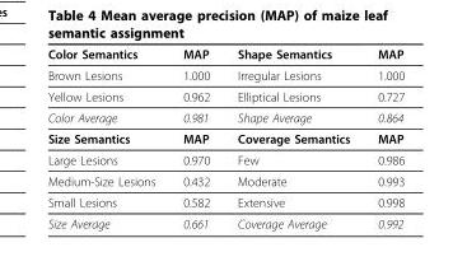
<table><thead><tr><td>Color Semantics</td><td>MAP</td><td>Shape Semantics</td><td>MAP</td></tr></thead><tbody><tr><td>Brown Lesions</td><td>1.000</td><td>Irregular Lesions</td><td>1.000</td></tr><tr><td>Yellow Lesions</td><td>0.962</td><td>Elliptical Lesions</td><td>0.727</td></tr><tr><td>Color Average</td><td>0.981</td><td>Shape Average</td><td>0.864</td></tr><tr><td>Size Semantics</td><td>MAP</td><td>Coverage Semantics</td><td>MAP</td></tr><tr><td>Large Lesions</td><td>0.970</td><td>Few</td><td>0.986</td></tr><tr><td>Medium-Size Lesions</td><td>0.432</td><td>Moderate</td><td>0.993</td></tr><tr><td>Small Lesions</td><td>0.582</td><td>Extensive</td><td>0.998</td></tr><tr><td>Size Average</td><td>0.661</td><td>Coverage Average</td><td>0.992</td></tr></tbody></table>